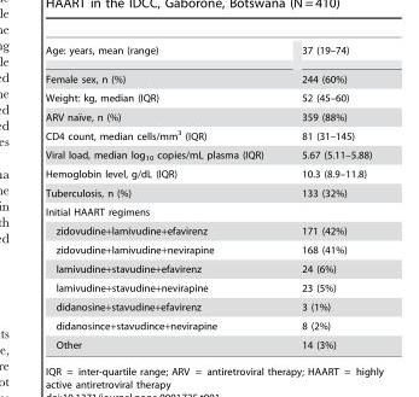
<table><tbody><tr><td>Age: years, mean (range)</td><td>37 (19–74)</td></tr><tr><td>Female sex, n (%)</td><td>244 (60%)</td></tr><tr><td>Weight: kg, median (IQR)</td><td>52 (45–60)</td></tr><tr><td>ARV naı¨ve, n (%)</td><td>359 (88%)</td></tr><tr><td>CD4 count, median cells/mm<sup>3</sup> (IQR)</td><td>81 (31–145)</td></tr><tr><td>Viral load, median log<sub>10</sub> copies/mL plasma (IQR)</td><td>5.67 (5.11–5.88)</td></tr><tr><td>Hemoglobin level, g/dL (IQR)</td><td>10.3 (8.9–11.8)</td></tr><tr><td>Tuberculosis, n (%)</td><td>133 (32%)</td></tr><tr><td colspan="2">Initial HAART regimens</td></tr><tr><td>zidovudine+lamivudine+efavirenz</td><td>171 (42%)</td></tr><tr><td>zidovudine+lamivudine+nevirapine</td><td>168 (41%)</td></tr><tr><td>lamivudine+stavudine+efavirenz</td><td>24 (6%)</td></tr><tr><td>lamivudine+stavudine+nevirapine</td><td>23 (5%)</td></tr><tr><td>didanosine+stavudine+efavirenz</td><td>3 (1%)</td></tr><tr><td>didanosince+stavudince+nevirapine</td><td>8 (2%)</td></tr><tr><td>Other</td><td>14 (3%)</td></tr></tbody></table>